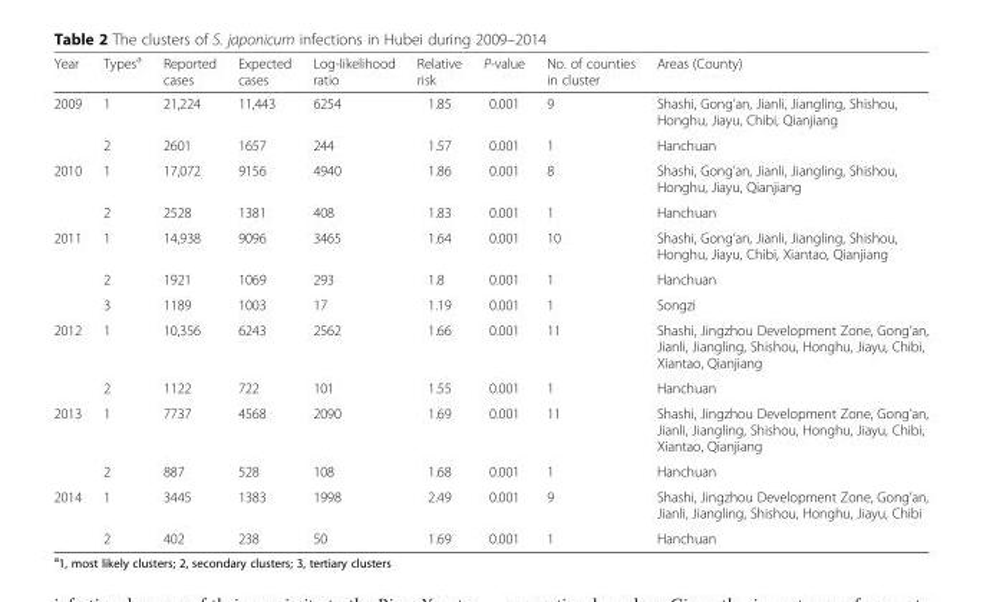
<table><thead><tr><td>Year</td><td>Types<sup>a</sup></td><td>Reported cases</td><td>Expected cases</td><td>Log-likelihood ratio</td><td>Relative risk</td><td>P-value</td><td>No. of counties in cluster</td><td>Areas (County)</td></tr></thead><tbody><tr><td rowspan="2">2009</td><td>1</td><td>21,224</td><td>11,443</td><td>6254</td><td>1.85</td><td>0.001</td><td>9</td><td>Shashi, Gong’an, Jianli, Jiangling, Shishou, Honghu, Jiayu, Chibi, Qianjiang</td></tr><tr><td>2</td><td>2601</td><td>1657</td><td>244</td><td>1.57</td><td>0.001</td><td>1</td><td>Hanchuan</td></tr><tr><td rowspan="2">2010</td><td>1</td><td>17,072</td><td>9156</td><td>4940</td><td>1.86</td><td>0.001</td><td>8</td><td>Shashi, Gong’an, Jianli, Jiangling, Shishou, Honghu, Jiayu, Qianjiang</td></tr><tr><td>2</td><td>2528</td><td>1381</td><td>408</td><td>1.83</td><td>0.001</td><td>1</td><td>Hanchuan</td></tr><tr><td rowspan="3">2011</td><td>1</td><td>14,938</td><td>9096</td><td>3465</td><td>1.64</td><td>0.001</td><td>10</td><td>Shashi, Gong’an, Jianli, Jiangling, Shishou, Honghu, Jiayu, Chibi, Xiantao, Qianjiang</td></tr><tr><td>2</td><td>1921</td><td>1069</td><td>293</td><td>1.8</td><td>0.001</td><td>1</td><td>Hanchuan</td></tr><tr><td>3</td><td>1189</td><td>1003</td><td>17</td><td>1.19</td><td>0.001</td><td>1</td><td>Songzi</td></tr><tr><td rowspan="2">2012</td><td>1</td><td>10,356</td><td>6243</td><td>2562</td><td>1.66</td><td>0.001</td><td>11</td><td>Shashi, Jingzhou Development Zone, Gong’an, Jianli, Jiangling, Shishou, Honghu, Jiayu, Chibi, Xiantao, Qianjiang</td></tr><tr><td>2</td><td>1122</td><td>722</td><td>101</td><td>1.55</td><td>0.001</td><td>1</td><td>Hanchuan</td></tr><tr><td rowspan="2">2013</td><td>1</td><td>7737</td><td>4568</td><td>2090</td><td>1.69</td><td>0.001</td><td>11</td><td>Shashi, Jingzhou Development Zone, Gong’an, Jianli, Jiangling, Shishou, Honghu, Jiayu, Chibi, Xiantao, Qianjiang</td></tr><tr><td>2</td><td>887</td><td>528</td><td>108</td><td>1.68</td><td>0.001</td><td>1</td><td>Hanchuan</td></tr><tr><td rowspan="2">2014</td><td>1</td><td>3445</td><td>1383</td><td>1998</td><td>2.49</td><td>0.001</td><td>9</td><td>Shashi, Jingzhou Development Zone, Gong’an, Jianli, Jiangling, Shishou, Honghu, Jiayu, Chibi</td></tr><tr><td>2</td><td>402</td><td>238</td><td>50</td><td>1.69</td><td>0.001</td><td>1</td><td>Hanchuan</td></tr></tbody></table>